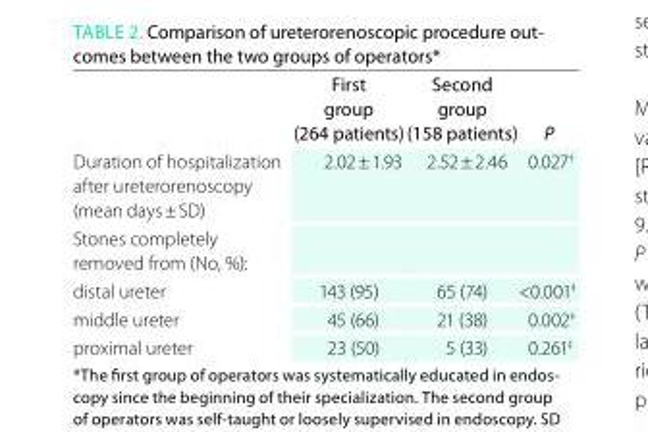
<table><thead><tr><td></td><td>First group (264 patients)</td><td>second group (158 patients)</td><td>P</td></tr></thead><tbody><tr><td>Duration of hospitalization after ureterorenoscopy (mean days ± SD)</td><td>2.02 ± 1.93</td><td>2.52 ± 2.46</td><td>0.027<sup>†</sup></td></tr><tr><td colspan="4">Stones completely removed from (No, %):</td></tr><tr><td>distal ureter</td><td>143 (95)</td><td>65 (74)</td><td>&lt;0.001<sup>‡</sup></td></tr><tr><td>middle ureter</td><td>45 (66)</td><td>21 (38)</td><td>0.002<sup>‡</sup></td></tr><tr><td>proximal ureter</td><td>23 (50)</td><td>5 (33)</td><td>0.261<sup>‡</sup></td></tr></tbody></table>